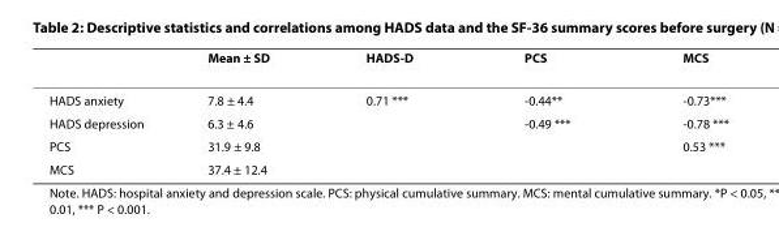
<table><thead><tr><td></td><td>Mean ± SD</td><td>HADS-D</td><td>PCS</td><td>MCS</td></tr></thead><tbody><tr><td>HADS anxiety</td><td>7.8 ± 4.4</td><td>0.71 ***</td><td>-0.44**</td><td>-0.73***</td></tr><tr><td>HADS depression</td><td>6.3 ± 4.6</td><td></td><td>-0.49 ***</td><td>-0.78 ***</td></tr><tr><td>PCS</td><td>31.9 ± 9.8</td><td></td><td></td><td>0.53 ***</td></tr><tr><td>MCS</td><td>37.4 ± 12.4</td><td></td><td></td><td></td></tr></tbody></table>